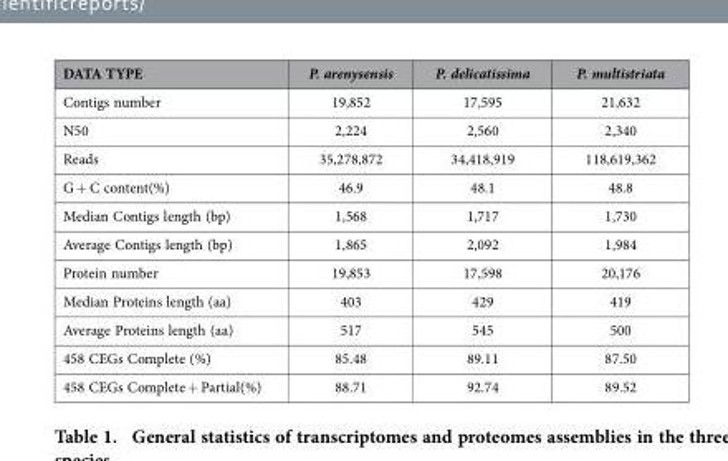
<table><thead><tr><td>DATA TYPE</td><td>P. arenysensis</td><td>P. delicatissima</td><td>P. multistriata</td></tr></thead><tbody><tr><td>Contigs number</td><td>19,852</td><td>17,595</td><td>21,632</td></tr><tr><td>N50</td><td>2,224</td><td>2,560</td><td>2,340</td></tr><tr><td>Reads</td><td>35,278,872</td><td>34,418,919</td><td>118,619,362</td></tr><tr><td>G + C content(%)</td><td>46.9</td><td>48.1</td><td>48.8</td></tr><tr><td>Median Contigs length (bp)</td><td>1,568</td><td>1,717</td><td>1,730</td></tr><tr><td>Average Contigs length (bp)</td><td>1,865</td><td>2,092</td><td>1,984</td></tr><tr><td>Protein number</td><td>19,853</td><td>17,598</td><td>20,176</td></tr><tr><td>Median Proteins length (aa)</td><td>403</td><td>429</td><td>419</td></tr><tr><td>Average Proteins length (aa)</td><td>517</td><td>545</td><td>500</td></tr><tr><td>458 CEGs Complete (%)</td><td>85.48</td><td>89.11</td><td>87.50</td></tr><tr><td>458 CEGs Complete + Partial(%)</td><td>88.71</td><td>92.74</td><td>89.52</td></tr></tbody></table>